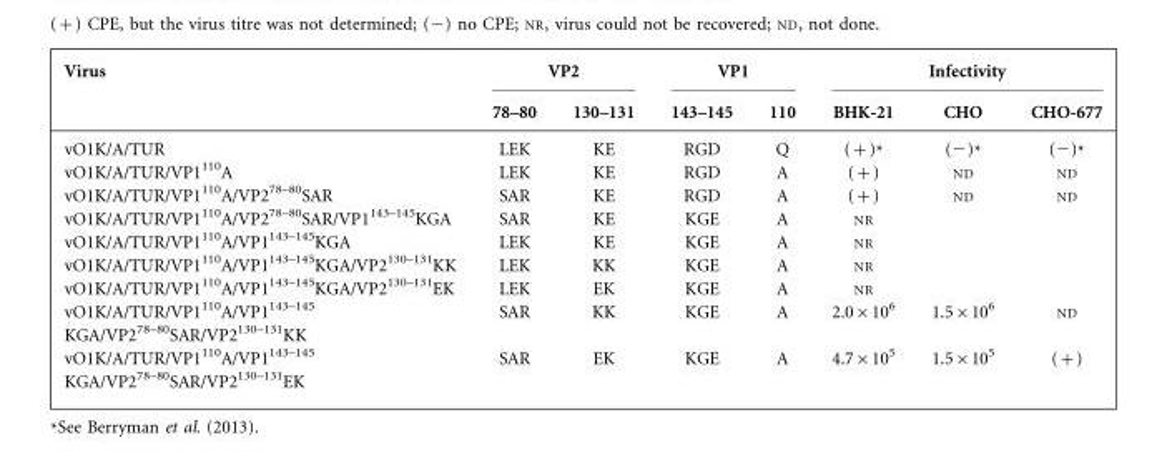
<table><thead><tr><td rowspan="2">Virus</td><td colspan="2">VP2</td><td colspan="2">VP1</td><td colspan="3">Infectivity</td></tr><tr><td>78–80</td><td>130–131</td><td>143–145</td><td>110</td><td>BHK-21</td><td>CHO</td><td>CHO-677</td></tr></thead><tbody><tr><td>vO1K/A/TUR</td><td>LEK</td><td>KE</td><td>RGD</td><td>Q</td><td>(+)*</td><td>(−)*</td><td>(−)*</td></tr><tr><td>vO1K/A/TUR/VP1<sup>110</sup>A</td><td>LEK</td><td>KE</td><td>RGD</td><td>A</td><td>(+)</td><td>ND</td><td>ND</td></tr><tr><td>vO1K/A/TUR/VP1<sup>110</sup>A/VP2<sup>78–80</sup>SAR</td><td>SAR</td><td>KE</td><td>RGD</td><td>A</td><td>(+)</td><td>ND</td><td>ND</td></tr><tr><td>vO1K/A/TUR/VP1<sup>110</sup>A/VP2<sup>78–80</sup>SAR/VP1<sup>143–145</sup>KGA</td><td>SAR</td><td>KE</td><td>KGE</td><td>A</td><td>NR</td><td></td><td></td></tr><tr><td>vO1K/A/TUR/VP1<sup>110</sup>A/VP1<sup>143–145</sup>KGA</td><td>LEK</td><td>KE</td><td>KGE</td><td>A</td><td>NR</td><td></td><td></td></tr><tr><td>vO1K/A/TUR/VP1<sup>110</sup>A/VP1<sup>143–145</sup>KGA/VP2<sup>130–131</sup>KK</td><td>LEK</td><td>KK</td><td>KGE</td><td>A</td><td>NR</td><td></td><td></td></tr><tr><td>vO1K/A/TUR/VP1<sup>110</sup>A/VP1<sup>143–145</sup>KGA/VP2<sup>130–131</sup>EK</td><td>LEK</td><td>EK</td><td>KGE</td><td>A</td><td>NR</td><td></td><td></td></tr><tr><td>vO1K/A/TUR/VP1<sup>110</sup>A/VP1<sup>143–145</sup></td><td>SAR</td><td>KK</td><td>KGE</td><td>A</td><td>2.0×10<sup>6</sup></td><td>1.5×10<sup>6</sup></td><td>ND</td></tr><tr><td colspan="8">KGA/VP2<sup>78–80</sup>SAR/VP2<sup>130–131</sup>KK</td></tr><tr><td>vO1K/A/TUR/VP1<sup>110</sup>A/VP1<sup>143–145</sup></td><td>SAR</td><td>EK</td><td>KGE</td><td>A</td><td>4.7×10<sup>5</sup></td><td>1.5×10<sup>5</sup></td><td>(+)</td></tr><tr><td>KGA/VP2<sup>78–80</sup>SAR/VP2<sup>130–131</sup>EK</td><td></td><td></td><td></td><td></td><td></td><td></td><td></td></tr></tbody></table>